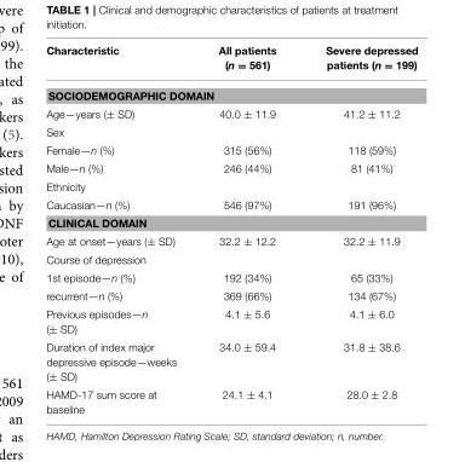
<table><thead><tr><td>Characteristic</td><td>All patients (n = 561)</td><td>Severe depressed patients (n = 199)</td></tr></thead><tbody><tr><td colspan="3">SOCIODEMOGRAPHIC DOMAIN</td></tr><tr><td>Age—years (± SD)</td><td>40.0 ± 11.9</td><td>41.2 ± 11.2</td></tr><tr><td colspan="3">Sex</td></tr><tr><td>Female—n (%)</td><td>315 (56%)</td><td>118 (59%)</td></tr><tr><td>Male—n (%)</td><td>246 (44%)</td><td>81 (41%)</td></tr><tr><td colspan="3">Ethnicity</td></tr><tr><td>Caucasian—n (%)</td><td>546 (97%)</td><td>191 (96%)</td></tr><tr><td colspan="3">CLINICAL DOMAIN</td></tr><tr><td>Age at onset—years (± SD)</td><td>32.2 ± 12.2</td><td>32.2 ± 11.9</td></tr><tr><td colspan="3">Course of depression</td></tr><tr><td>1st episode—n (%)</td><td>192 (34%)</td><td>65 (33%)</td></tr><tr><td>recurrent—n (%)</td><td>369 (66%)</td><td>134 (67%)</td></tr><tr><td>Previous episodes—n (± SD)</td><td>4.1 ± 5.6</td><td>4.1 ± 6.0</td></tr><tr><td>Duration of index major depressive episode—weeks (± SD)</td><td>34.0 ± 59.4</td><td>31.8 ± 38.6</td></tr><tr><td>HAMD-17 sum score at baseline</td><td>24.1 ± 4.1</td><td>28.0 ± 2.8</td></tr></tbody></table>